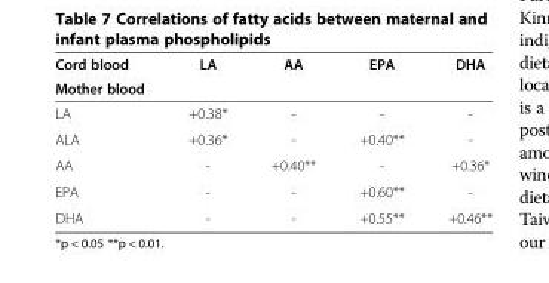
<table><thead><tr><td rowspan="2">Cord blood Mother blood</td><td rowspan="2">LA</td><td rowspan="2">AA</td><td rowspan="2">EPA</td><td rowspan="2">DHA</td></tr><tr></tr></thead><tbody><tr><td>LA</td><td>+0.38*</td><td>-</td><td>-</td><td>-</td></tr><tr><td>ALA</td><td>+0.36*</td><td>-</td><td>+0.40**</td><td>-</td></tr><tr><td>AA</td><td>-</td><td>+0.40**</td><td>-</td><td>+0.36*</td></tr><tr><td>EPA</td><td>-</td><td>-</td><td>+0.60**</td><td>-</td></tr><tr><td>DHA</td><td>-</td><td>-</td><td>+0.55**</td><td>+0.46**</td></tr></tbody></table>